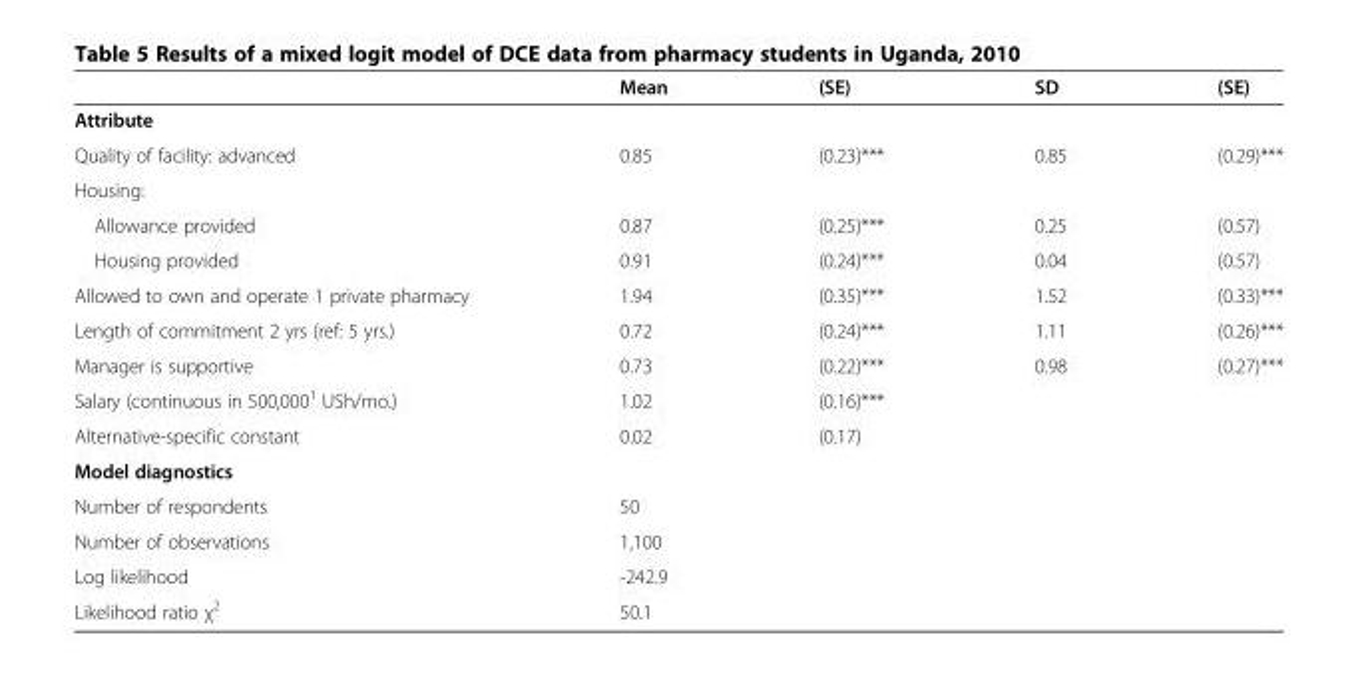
<table><thead><tr><td></td><td>Mean</td><td>(SE)</td><td>SD</td><td>(SE)</td></tr></thead><tbody><tr><td colspan="5">Attribute</td></tr><tr><td>Quality of facility: advanced</td><td>0.85</td><td>(0.23)***</td><td>0.85</td><td>(0.29)***</td></tr><tr><td colspan="5">Housing:</td></tr><tr><td>Allowance provided</td><td>0.87</td><td>(0.25)***</td><td>0.25</td><td>(0.57)</td></tr><tr><td>Housing provided</td><td>0.91</td><td>(0.24)***</td><td>0.04</td><td>(0.57)</td></tr><tr><td>Allowed to own and operate 1 private pharmacy</td><td>1.94</td><td>(0.35)***</td><td>1.52</td><td>(0.33)***</td></tr><tr><td>Length of commitment 2 yrs (ref: 5 yrs.)</td><td>0.72</td><td>(0.24)***</td><td>1.11</td><td>(0.26)***</td></tr><tr><td>Manager is supportive</td><td>0.73</td><td>(0.22)***</td><td>0.98</td><td>(0.27)***</td></tr><tr><td>Salary (continuous in 500,000<sup>1</sup> USh/mo.)</td><td>1.02</td><td>(0.16)***</td><td></td><td></td></tr><tr><td>Alternative-specific constant</td><td>0.02</td><td>(0.17)</td><td></td><td></td></tr><tr><td colspan="5">Model diagnostics</td></tr><tr><td>Number of respondents</td><td>50</td><td></td><td></td><td></td></tr><tr><td>Number of observations</td><td>1,100</td><td></td><td></td><td></td></tr><tr><td>Log likelihood</td><td>-242.9</td><td></td><td></td><td></td></tr><tr><td>Likelihood ratio χ<sup>2</sup></td><td>50.1</td><td></td><td></td><td></td></tr></tbody></table>